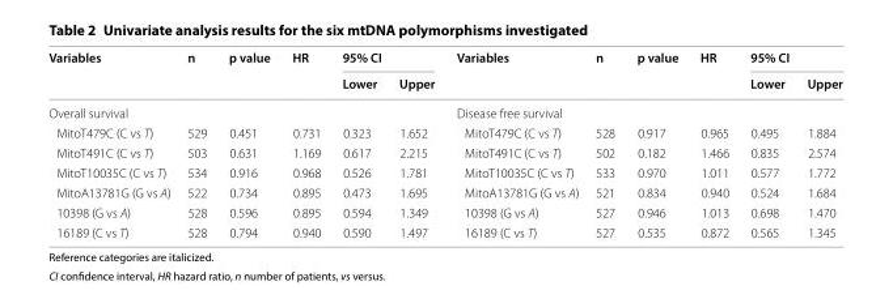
<table><thead><tr><td rowspan="2">Variables</td><td rowspan="2">n</td><td rowspan="2">p value</td><td rowspan="2">HR</td><td colspan="2">95% CI</td><td rowspan="2">Variables</td><td rowspan="2">n</td><td rowspan="2">p value</td><td rowspan="2">HR</td><td colspan="2">95% CI</td></tr><tr><td>Lower</td><td>Upper</td><td>Lower</td><td>Upper</td></tr></thead><tbody><tr><td colspan="6">Overall survival</td><td colspan="6">Disease free survival</td></tr><tr><td>MitoT479C (C vs T)</td><td>529</td><td>0.451</td><td>0.731</td><td>0.323</td><td>1.652</td><td>MitoT479C (C vs T)</td><td>528</td><td>0.917</td><td>0.965</td><td>0.495</td><td>1.884</td></tr><tr><td>MitoT491C (C vs T)</td><td>503</td><td>0.631</td><td>1.169</td><td>0.617</td><td>2.215</td><td>MitoT491C (C vs T)</td><td>502</td><td>0.182</td><td>1.466</td><td>0.835</td><td>2.574</td></tr><tr><td>MitoT10035C (C vs T)</td><td>534</td><td>0.916</td><td>0.968</td><td>0.526</td><td>1.781</td><td>MitoT10035C (C vs T)</td><td>533</td><td>0.970</td><td>1.011</td><td>0.577</td><td>1.772</td></tr><tr><td>MitoA13781G (G vs A)</td><td>522</td><td>0.734</td><td>0.895</td><td>0.473</td><td>1.695</td><td>MitoA13781G (G vs A)</td><td>521</td><td>0.834</td><td>0.940</td><td>0.524</td><td>1.684</td></tr><tr><td>10398 (G vs A)</td><td>528</td><td>0.596</td><td>0.895</td><td>0.594</td><td>1.349</td><td>10398 (G vs A)</td><td>527</td><td>0.946</td><td>1.013</td><td>0.698</td><td>1.470</td></tr><tr><td>16189 (C vs T)</td><td>528</td><td>0.794</td><td>0.940</td><td>0.590</td><td>1.497</td><td>16189 (C vs T)</td><td>527</td><td>0.535</td><td>0.872</td><td>0.565</td><td>1.345</td></tr></tbody></table>